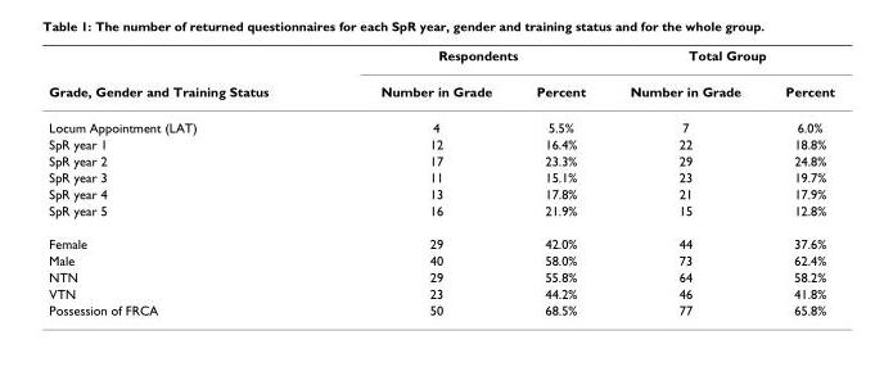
<table><thead><tr><td rowspan="2">Grade, Gender and Training Status</td><td colspan="2">Respondents</td><td colspan="2">Total Group</td></tr><tr><td>Number in Grade</td><td>Percent</td><td>Number in Grade</td><td>Percent</td></tr></thead><tbody><tr><td>Locum Appointment (LAT)</td><td>4</td><td>5.5%</td><td>7</td><td>6.0%</td></tr><tr><td>SpR year 1</td><td>12</td><td>16.4%</td><td>22</td><td>18.8%</td></tr><tr><td>SpR year 2</td><td>17</td><td>23.3%</td><td>29</td><td>24.8%</td></tr><tr><td>SpR year 3</td><td>11</td><td>15.1%</td><td>23</td><td>19.7%</td></tr><tr><td>SpR year 4</td><td>13</td><td>17.8%</td><td>21</td><td>17.9%</td></tr><tr><td>SpR year 5</td><td>16</td><td>21.9%</td><td>15</td><td>12.8%</td></tr><tr><td>Female</td><td>29</td><td>42.0%</td><td>44</td><td>37.6%</td></tr><tr><td>Male</td><td>40</td><td>58.0%</td><td>73</td><td>62.4%</td></tr><tr><td>NTN</td><td>29</td><td>55.8%</td><td>64</td><td>58.2%</td></tr><tr><td>VTN</td><td>23</td><td>44.2%</td><td>46</td><td>41.8%</td></tr><tr><td>Possession of FRCA</td><td>50</td><td>68.5%</td><td>77</td><td>65.8%</td></tr></tbody></table>